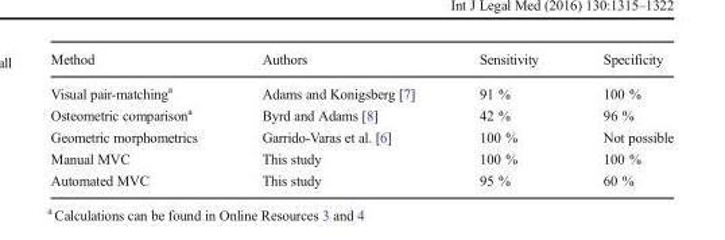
<table><thead><tr><td>Method</td><td>Authors</td><td>Sensitivity</td><td>Specificity</td></tr></thead><tbody><tr><td>Visual pair-matchinga</td><td>Adams and Konigsberg [7]</td><td>91 %</td><td>100 %</td></tr><tr><td>Osteometric comparisona</td><td>Byrd and Adams [8]</td><td>42 %</td><td>96 %</td></tr><tr><td>Geometric morphometrics</td><td>Garrido-Varas et al. [6]</td><td>100 %</td><td>Not possible</td></tr><tr><td>Manual MVC</td><td>This study</td><td>100 %</td><td>100 %</td></tr><tr><td>Automated MVC</td><td>This study</td><td>95 %</td><td>60 %</td></tr></tbody></table>